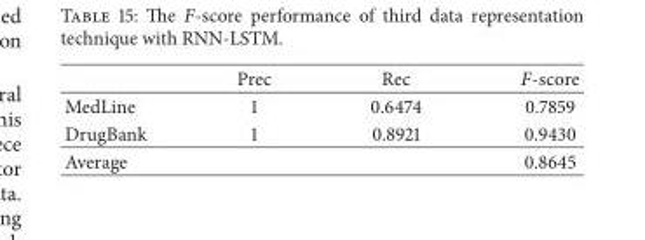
<table><thead><tr><td></td><td>Prec</td><td>Rec</td><td>F-score</td></tr></thead><tbody><tr><td>MedLine</td><td>1</td><td>0.6474</td><td>0.7859</td></tr><tr><td>DrugBank</td><td>1</td><td>0.8921</td><td>0.9430</td></tr><tr><td>Average</td><td></td><td></td><td>0.8645</td></tr></tbody></table>